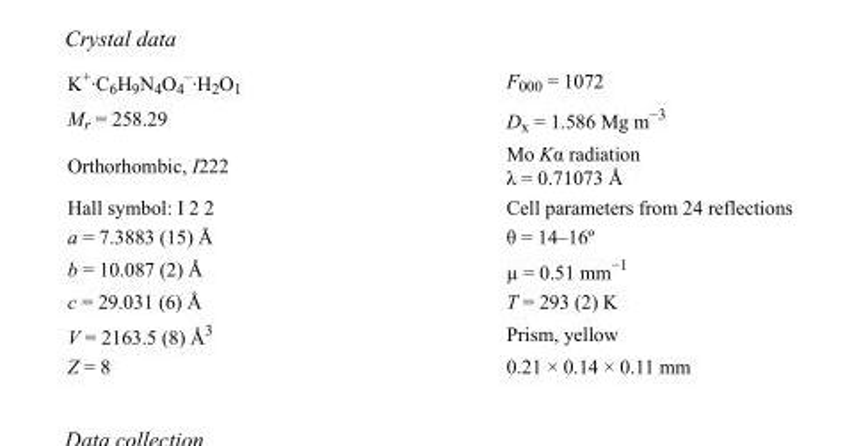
<table><tbody><tr><td>K+·C6H9N4O4 –·H2O1</td><td>F000 = 1072</td></tr><tr><td>M<sub>r</sub> = 258.29</td><td>D<sub>x</sub> = 1.586 Mg m<sup>−3</sup></td></tr><tr><td>Orthorhombic, I222</td><td>Mo Kα radiation λ = 0.71073 Å</td></tr><tr><td>Hall symbol: I 2 2</td><td>Cell parameters from 24 reflections</td></tr><tr><td>a = 7.3883 (15) Å</td><td>θ = 14–16º</td></tr><tr><td>b = 10.087 (2) Å</td><td>µ = 0.51 mm<sup>−1</sup></td></tr><tr><td>c = 29.031 (6) Å</td><td>T = 293 (2) K</td></tr><tr><td>V = 2163.5 (8) Å<sup>3</sup></td><td>Prism, yellow</td></tr><tr><td>Z = 8</td><td>0.21 × 0.14 × 0.11 mm</td></tr></tbody></table>